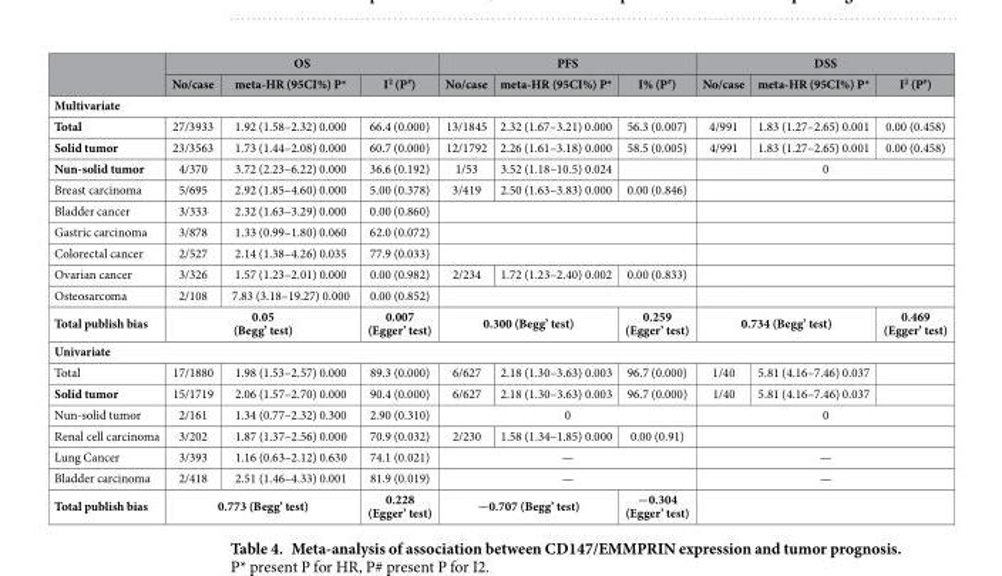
<table><thead><tr><td rowspan="2"></td><td colspan="3">OS</td><td colspan="3">PFS</td><td colspan="3">DSS</td></tr><tr><td>No/case</td><td>meta-HR (95CI%) P*</td><td>I<sup>2</sup> (P<sup>#</sup>)</td><td>No/case</td><td>meta-HR (95CI%) P*</td><td>I% (P<sup>#</sup>)</td><td>No/case</td><td>meta-HR (95CI%) P*</td><td>I<sup>2</sup> (P<sup>#</sup>)</td></tr></thead><tbody><tr><td colspan="10">Multivariate</td></tr><tr><td>Total</td><td>27/3933</td><td>1.92 (1.58–2.32) 0.000</td><td>66.4 (0.000)</td><td>13/1845</td><td>2.32 (1.67–3.21) 0.000</td><td>56.3 (0.007)</td><td>4/991</td><td>1.83 (1.27–2.65) 0.001</td><td>0.00 (0.458)</td></tr><tr><td>Solid tumor</td><td>23/3563</td><td>1.73 (1.44–2.08) 0.000</td><td>60.7 (0.000)</td><td>12/1792</td><td>2.26 (1.61–3.18) 0.000</td><td>58.5 (0.005)</td><td>4/991</td><td>1.83 (1.27–2.65) 0.001</td><td>0.00 (0.458)</td></tr><tr><td>Nun-solid tumor</td><td>4/370</td><td>3.72 (2.23–6.22) 0.000</td><td>36.6 (0.192)</td><td>1/53</td><td>3.52 (1.18–10.5) 0.024</td><td></td><td colspan="3">0</td></tr><tr><td>Breast carcinoma</td><td>5/695</td><td>2.92 (1.85–4.60) 0.000</td><td>5.00 (0.378)</td><td>3/419</td><td>2.50 (1.63–3.83) 0.000</td><td>0.00 (0.846)</td><td colspan="3"></td></tr><tr><td>Bladder cancer</td><td>3/333</td><td>2.32 (1.63–3.29) 0.000</td><td>0.00 (0.860)</td><td colspan="3"></td><td colspan="3"></td></tr><tr><td>Gastric carcinoma</td><td>3/878</td><td>1.33 (0.99–1.80) 0.060</td><td>62.0 (0.072)</td><td colspan="3"></td><td colspan="3"></td></tr><tr><td>Colorectal cancer</td><td>2/527</td><td>2.14 (1.38–4.26) 0.035</td><td>77.9 (0.033)</td><td colspan="3"></td><td colspan="3"></td></tr><tr><td>Ovarian cancer</td><td>3/326</td><td>1.57 (1.23–2.01) 0.000</td><td>0.00 (0.982)</td><td>2/234</td><td>1.72 (1.23–2.40) 0.002</td><td>0.00 (0.833)</td><td colspan="3"></td></tr><tr><td>Osteosarcoma</td><td>2/108</td><td>7.83 (3.18–19.27) 0.000</td><td>0.00 (0.852)</td><td colspan="3"></td><td colspan="3"></td></tr><tr><td>Total publish bias</td><td colspan="2">0.05 (Begg’ test)</td><td>0.007 (Egger’ test)</td><td colspan="2">0.300 (Begg’ test)</td><td>0.259 (Egger’ test)</td><td colspan="2">0.734 (Begg’ test)</td><td>0.469 (Egger’ test)</td></tr><tr><td colspan="10">Univariate</td></tr><tr><td>Total</td><td>17/1880</td><td>1.98 (1.53–2.57) 0.000</td><td>89.3 (0.000)</td><td>6/627</td><td>2.18 (1.30–3.63) 0.003</td><td>96.7 (0.000)</td><td>1/40</td><td>5.81 (4.16–7.46) 0.037</td><td></td></tr><tr><td>Solid tumor</td><td>15/1719</td><td>2.06 (1.57–2.70) 0.000</td><td>90.4 (0.000)</td><td>6/627</td><td>2.18 (1.30–3.63) 0.003</td><td>96.7 (0.000)</td><td>1/40</td><td>5.81 (4.16–7.46) 0.037</td><td></td></tr><tr><td>Nun-solid tumor</td><td>2/161</td><td>1.34 (0.77–2.32) 0.300</td><td>2.90 (0.310)</td><td colspan="3">0</td><td colspan="3">0</td></tr><tr><td>Renal cell carcinoma</td><td>3/202</td><td>1.87 (1.37–2.56) 0.000</td><td>70.9 (0.032)</td><td>2/230</td><td>1.58 (1.34–1.85) 0.000</td><td>0.00 (0.91)</td><td colspan="3"></td></tr><tr><td>Lung Cancer</td><td>3/393</td><td>1.16 (0.63–2.12) 0.630</td><td>74.1 (0.021)</td><td colspan="3">—</td><td colspan="3">—</td></tr><tr><td>Bladder carcinoma</td><td>2/418</td><td>2.51 (1.46–4.33) 0.001</td><td>81.9 (0.019)</td><td colspan="3">—</td><td colspan="3">—</td></tr><tr><td>Total publish bias</td><td colspan="2">0.773 (Begg’ test)</td><td>0.228 (Egger’ test)</td><td colspan="2">−0.707 (Begg’ test)</td><td>−0.304 (Egger’ test)</td><td colspan="3"></td></tr></tbody></table>